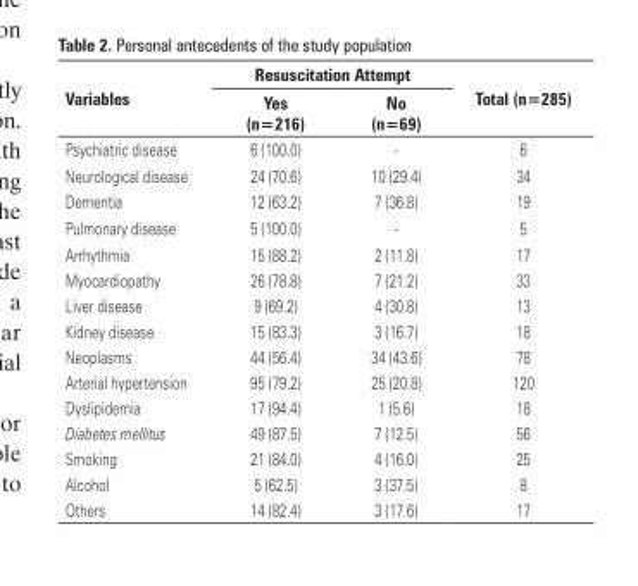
<table><thead><tr><td rowspan="2">Variables</td><td colspan="2">Resuscitation Attempt</td><td rowspan="2">Total (n=285)</td></tr><tr><td>Yes (n=216)</td><td>No (n=69)</td></tr></thead><tbody><tr><td>Psychiatric disease</td><td>6 (100.0)</td><td>-</td><td>6</td></tr><tr><td>Neurological disease</td><td>24 (70.6)</td><td>10 (29.4)</td><td>34</td></tr><tr><td>Dementia</td><td>12 (63.2)</td><td>7 (36.8)</td><td>19</td></tr><tr><td>Pulmonary disease</td><td>5 (100.0)</td><td>-</td><td>5</td></tr><tr><td>Arrhythmia</td><td>15 (88.2)</td><td>2 (11.8)</td><td>17</td></tr><tr><td>Myocardiopathy</td><td>26 (78.8)</td><td>7 (21.2)</td><td>33</td></tr><tr><td>Liver disease</td><td>9 (69.2)</td><td>4 (30.8)</td><td>13</td></tr><tr><td>Kidney disease</td><td>15 (83.3)</td><td>3 (16.7)</td><td>18</td></tr><tr><td>Neoplasms</td><td>44 (56.4)</td><td>34 (43.6)</td><td>78</td></tr><tr><td>Arterial hypertension</td><td>95 (79.2)</td><td>25 (20.8)</td><td>120</td></tr><tr><td>Dyslipidemia</td><td>17 (94.4)</td><td>1 (5.6)</td><td>18</td></tr><tr><td>Diabetes mellitus</td><td>49 (87.5)</td><td>7 (12.5)</td><td>56</td></tr><tr><td>Smoking</td><td>21 (84.0)</td><td>4 (16.0)</td><td>25</td></tr><tr><td>Alcohol</td><td>5 (62.5)</td><td>3 (37.5)</td><td>8</td></tr><tr><td>Others</td><td>14 (82.4)</td><td>3 (17.6)</td><td>17</td></tr></tbody></table>